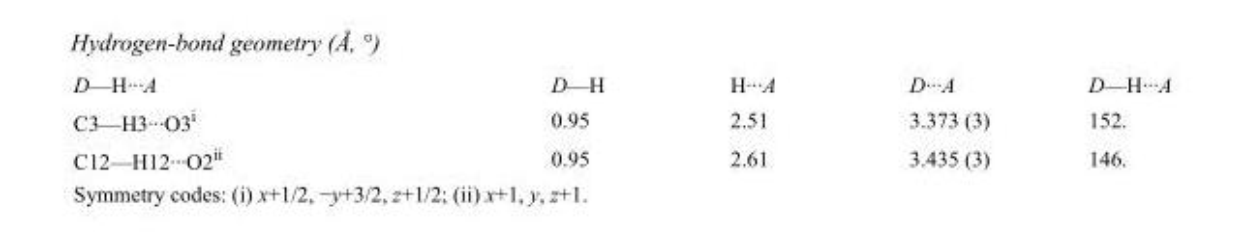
<table><tbody><tr><td>D—H···A</td><td>D—H</td><td>H···A</td><td>D···A</td><td>D—H···A</td></tr><tr><td>C3—H3···O3<sup>i</sup></td><td>0.95</td><td>2.51</td><td>3.373 (3)</td><td>152.</td></tr><tr><td>C12—H12···O2<sup>ii</sup></td><td>0.95</td><td>2.61</td><td>3.435 (3)</td><td>146.</td></tr></tbody></table>